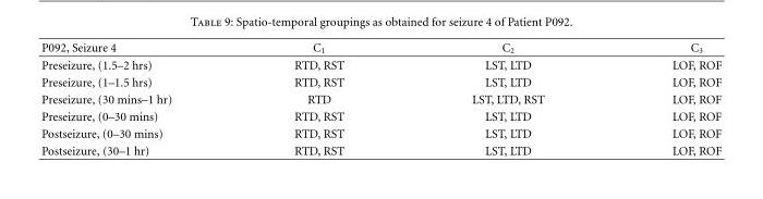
<table><thead><tr><td>P092, Seizure 4</td><td>C<sub>1</sub></td><td>C<sub>2</sub></td><td>C<sub>3</sub></td></tr></thead><tbody><tr><td>Preseizure, (1.5–2 hrs)</td><td>RTD, RST</td><td>LST, LTD</td><td>LOF, ROF</td></tr><tr><td>Preseizure, (1–1.5 hrs)</td><td>RTD, RST</td><td>LST, LTD</td><td>LOF, ROF</td></tr><tr><td>Preseizure, (30 mins–1 hr)</td><td>RTD</td><td>LST, LTD, RST</td><td>LOF, ROF</td></tr><tr><td>Preseizure, (0–30 mins)</td><td>RTD, RST</td><td>LST, LTD</td><td>LOF, ROF</td></tr><tr><td>Postseizure, (0–30 mins)</td><td>RTD, RST</td><td>LST, LTD</td><td>LOF, ROF</td></tr><tr><td>Postseizure, (30–1 hr)</td><td>RTD, RST</td><td>LST, LTD</td><td>LOF, ROF</td></tr></tbody></table>